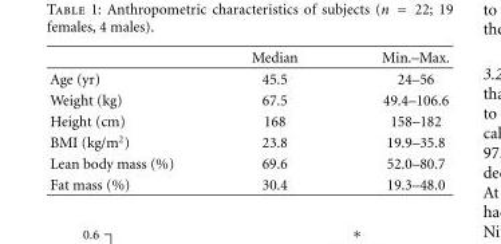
<table><thead><tr><td></td><td>Median</td><td>Min.–Max.</td></tr></thead><tbody><tr><td>Age (yr)</td><td>45.5</td><td>24–56</td></tr><tr><td>Weight (kg)</td><td>67.5</td><td>49.4–106.6</td></tr><tr><td>Height (cm)</td><td>168</td><td>158–182</td></tr><tr><td>BMI (kg/m<sup>2</sup>)</td><td>23.8</td><td>19.9–35.8</td></tr><tr><td>Lean body mass (%)</td><td>69.6</td><td>52.0–80.7</td></tr><tr><td>Fat mass (%)</td><td>30.4</td><td>19.3–48.0</td></tr></tbody></table>